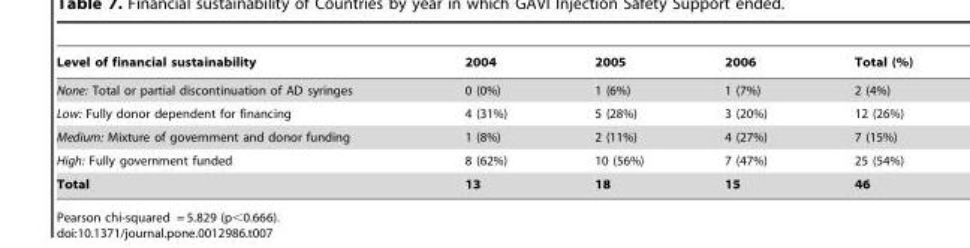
<table><thead><tr><td>Level of financial sustainability</td><td>2004</td><td>2005</td><td>2006</td><td>Total (%)</td></tr></thead><tbody><tr><td>None: Total or partial discontinuation of AD syringes</td><td>0 (0%)</td><td>1 (6%)</td><td>1 (7%)</td><td>2 (4%)</td></tr><tr><td>Low: Fully donor dependent for financing</td><td>4 (31%)</td><td>5 (28%)</td><td>3 (20%)</td><td>12 (26%)</td></tr><tr><td>Medium: Mixture of government and donor funding</td><td>1 (8%)</td><td>2 (11%)</td><td>4 (27%)</td><td>7 (15%)</td></tr><tr><td>High: Fully government funded</td><td>8 (62%)</td><td>10 (56%)</td><td>7 (47%)</td><td>25 (54%)</td></tr><tr><td>Total</td><td>13</td><td>18</td><td>15</td><td>46</td></tr></tbody></table>